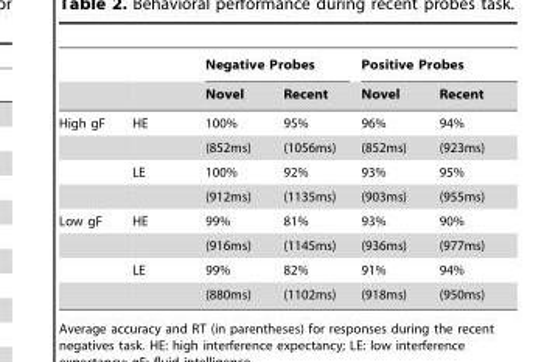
<table><thead><tr><td rowspan="2"></td><td rowspan="2"></td><td colspan="2">Negative Probes</td><td colspan="2">Positive Probes</td></tr><tr><td>Novel</td><td>Recent</td><td>Novel</td><td>Recent</td></tr></thead><tbody><tr><td rowspan="4">High gF</td><td>HE</td><td>100%</td><td>95%</td><td>96%</td><td>94%</td></tr><tr><td></td><td>(852ms)</td><td>(1056ms)</td><td>(852ms)</td><td>(923ms)</td></tr><tr><td>LE</td><td>100%</td><td>92%</td><td>93%</td><td>95%</td></tr><tr><td></td><td>(912ms)</td><td>(1135ms)</td><td>(903ms)</td><td>(955ms)</td></tr><tr><td rowspan="4">Low gF</td><td>HE</td><td>99%</td><td>81%</td><td>93%</td><td>90%</td></tr><tr><td></td><td>(916ms)</td><td>(1145ms)</td><td>(936ms)</td><td>(977ms)</td></tr><tr><td>LE</td><td>99%</td><td>82%</td><td>91%</td><td>94%</td></tr><tr><td></td><td>(880ms)</td><td>(1102ms)</td><td>(918ms)</td><td>(950ms)</td></tr></tbody></table>